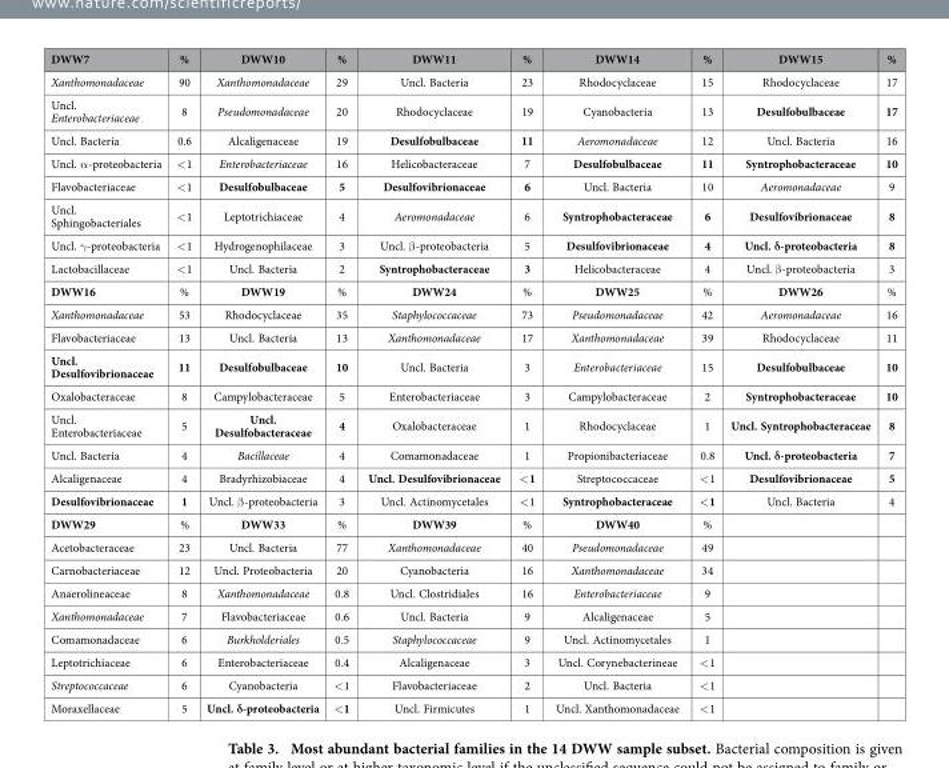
<table><thead><tr><td>DWW7</td><td>%</td><td>DWW10</td><td>%</td><td>DWW11</td><td>%</td><td>DWW14</td><td>%</td><td>DWW15</td><td>%</td></tr></thead><tbody><tr><td>Xanthomonadaceae</td><td>90</td><td>Xanthomonadaceae</td><td>29</td><td>Uncl. Bacteria</td><td>23</td><td>Rhodocyclaceae</td><td>15</td><td>Rhodocyclaceae</td><td>17</td></tr><tr><td>Uncl. Enterobacteriaceae</td><td>8</td><td>Pseudomonadaceae</td><td>20</td><td>Rhodocyclaceae</td><td>19</td><td>Cyanobacteria</td><td>13</td><td>Desulfobulbaceae</td><td>17</td></tr><tr><td>Uncl. Bacteria</td><td>0.6</td><td>Alcaligenaceae</td><td>19</td><td>Desulfobulbaceae</td><td>11</td><td>Aeromonadaceae</td><td>12</td><td>Uncl. Bacteria</td><td>16</td></tr><tr><td>Uncl. α -proteobacteria</td><td>&lt; 1</td><td>Enterobacteriaceae</td><td>16</td><td>Helicobacteraceae</td><td>7</td><td>Desulfobulbaceae</td><td>11</td><td>Syntrophobacteraceae</td><td>10</td></tr><tr><td>Flavobacteriaceae</td><td>&lt; 1</td><td>Desulfobulbaceae</td><td>5</td><td>Desulfovibrionaceae</td><td>6</td><td>Uncl. Bacteria</td><td>10</td><td>Aeromonadaceae</td><td>9</td></tr><tr><td>Uncl. Sphingobacteriales</td><td>&lt; 1</td><td>Leptotrichiaceae</td><td>4</td><td>Aeromonadaceae</td><td>6</td><td>Syntrophobacteraceae</td><td>6</td><td>Desulfovibrionaceae</td><td>8</td></tr><tr><td>Uncl. γ -proteobacteria</td><td>&lt; 1</td><td>Hydrogenophilaceae</td><td>3</td><td>Uncl. β -proteobacteria</td><td>5</td><td>Desulfovibrionaceae</td><td>4</td><td>Uncl. δ-proteobacteria</td><td>8</td></tr><tr><td>Lactobacillaceae</td><td>&lt; 1</td><td>Uncl. Bacteria</td><td>2</td><td>Syntrophobacteraceae</td><td>3</td><td>Helicobacteraceae</td><td>4</td><td>Uncl. β -proteobacteria</td><td>3</td></tr><tr><td>DWW16</td><td>%</td><td>DWW19</td><td>%</td><td>DWW24</td><td>%</td><td>DWW25</td><td>%</td><td>DWW26</td><td>%</td></tr><tr><td>Xanthomonadaceae</td><td>53</td><td>Rhodocyclaceae</td><td>35</td><td>Staphylococcaceae</td><td>73</td><td>Pseudomonadaceae</td><td>42</td><td>Aeromonadaceae</td><td>16</td></tr><tr><td>Flavobacteriaceae</td><td>13</td><td>Uncl. Bacteria</td><td>13</td><td>Xanthomonadaceae</td><td>17</td><td>Xanthomonadaceae</td><td>39</td><td>Rhodocyclaceae</td><td>11</td></tr><tr><td>Uncl. Desulfovibrionaceae</td><td>11</td><td>Desulfobulbaceae</td><td>10</td><td>Uncl. Bacteria</td><td>3</td><td>Enterobacteriaceae</td><td>15</td><td>Desulfobulbaceae</td><td>10</td></tr><tr><td>Oxalobacteraceae</td><td>8</td><td>Campylobacteraceae</td><td>5</td><td>Enterobacteriaceae</td><td>3</td><td>Campylobacteraceae</td><td>2</td><td>Syntrophobacteraceae</td><td>10</td></tr><tr><td>Uncl. Enterobacteriaceae</td><td>5</td><td>Uncl. Desulfobacteraceae</td><td>4</td><td>Oxalobacteraceae</td><td>1</td><td>Rhodocyclaceae</td><td>1</td><td>Uncl. Syntrophobacteraceae</td><td>8</td></tr><tr><td>Uncl. Bacteria</td><td>4</td><td>Bacillaceae</td><td>4</td><td>Comamonadaceae</td><td>1</td><td>Propionibacteriaceae</td><td>0.8</td><td>Uncl. δ-proteobacteria</td><td>7</td></tr><tr><td>Alcaligenaceae</td><td>4</td><td>Bradyrhizobiaceae</td><td>4</td><td>Uncl. Desulfovibrionaceae</td><td>&lt; 1</td><td>Streptococcaceae</td><td>&lt; 1</td><td>Desulfovibrionaceae</td><td>5</td></tr><tr><td>Desulfovibrionaceae</td><td>1</td><td>Uncl. β -proteobacteria</td><td>3</td><td>Uncl. Actinomycetales</td><td>&lt; 1</td><td>Syntrophobacteraceae</td><td>&lt; 1</td><td>Uncl. Bacteria</td><td>4</td></tr><tr><td>DWW29</td><td>%</td><td>DWW33</td><td>%</td><td>DWW39</td><td>%</td><td>DWW40</td><td>%</td><td></td><td></td></tr><tr><td>Acetobacteraceae</td><td>23</td><td>Uncl. Bacteria</td><td>77</td><td>Xanthomonadaceae</td><td>40</td><td>Pseudomonadaceae</td><td>49</td><td></td><td></td></tr><tr><td>Carnobacteriaceae</td><td>12</td><td>Uncl. Proteobacteria</td><td>20</td><td>Cyanobacteria</td><td>16</td><td>Xanthomonadaceae</td><td>34</td><td></td><td></td></tr><tr><td>Anaerolineaceae</td><td>8</td><td>Xanthomonadaceae</td><td>0.8</td><td>Uncl. Clostridiales</td><td>16</td><td>Enterobacteriaceae</td><td>9</td><td></td><td></td></tr><tr><td>Xanthomonadaceae</td><td>7</td><td>Flavobacteriaceae</td><td>0.6</td><td>Uncl. Bacteria</td><td>9</td><td>Alcaligenaceae</td><td>5</td><td></td><td></td></tr><tr><td>Comamonadaceae</td><td>6</td><td>Burkholderiales</td><td>0.5</td><td>Staphylococcaceae</td><td>9</td><td>Uncl. Actinomycetales</td><td>1</td><td></td><td></td></tr><tr><td>Leptotrichiaceae</td><td>6</td><td>Enterobacteriaceae</td><td>0.4</td><td>Alcaligenaceae</td><td>3</td><td>Uncl. Corynebacterineae</td><td>&lt; 1</td><td></td><td></td></tr><tr><td>Streptococcaceae</td><td>6</td><td>Cyanobacteria</td><td>&lt; 1</td><td>Flavobacteriaceae</td><td>2</td><td>Uncl. Bacteria</td><td>&lt; 1</td><td></td><td></td></tr><tr><td>Moraxellaceae</td><td>5</td><td>Uncl. δ-proteobacteria</td><td>&lt; 1</td><td>Uncl. Firmicutes</td><td>1</td><td>Uncl. Xanthomonadaceae</td><td>&lt; 1</td><td></td><td></td></tr></tbody></table>